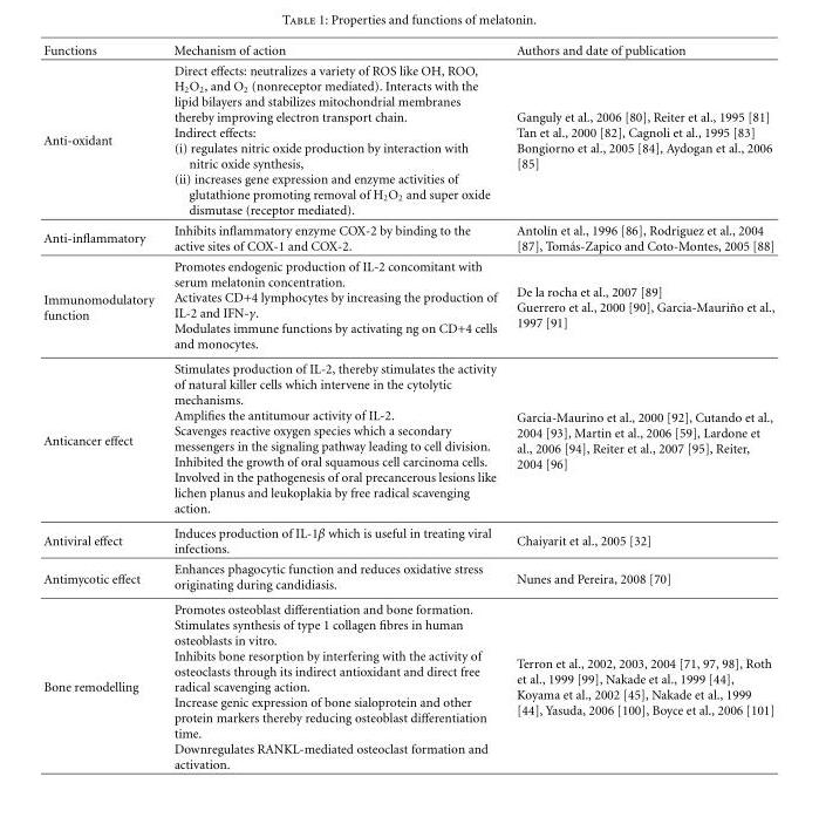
<table><thead><tr><td>Functions</td><td>Mechanism of action</td><td>Authors and date of publication</td></tr></thead><tbody><tr><td>Anti-oxidant</td><td>Direct effects: neutralizes a variety of ROS like OH, ROO, H2O2, and O2 (nonreceptor mediated). Interacts with the lipid bilayers and stabilizes mitochondrial membranes thereby improving electron transport chain. Indirect effects: (i) regulates nitric oxide production by interaction with nitric oxide synthesis, (ii) increases gene expression and enzyme activities of glutathione promoting removal of H2O2 and super oxide dismutase (receptor mediated).</td><td>Ganguly et al., 2006 [80], Reiter et al., 1995 [81] Tan et al., 2000 [82], Cagnoli et al., 1995 [83] Bongiorno et al., 2005 [84], Aydogan et al., 2006 [85]</td></tr><tr><td>Anti-inflammatory</td><td>Inhibits inflammatory enzyme COX-2 by binding to the active sites of COX-1 and COX-2.</td><td>Antol´ın et al., 1996 [86], Rodriguez et al., 2004 [87], Tom´as-Zapico and Coto-Montes, 2005 [88]</td></tr><tr><td>Immunomodulatory function</td><td>Promotes endogenic production of IL-2 concomitant with serum melatonin concentration. Activates CD+4 lymphocytes by increasing the production of IL-2 and IFN-γ. Modulates immune functions by activating ng on CD+4 cells and monocytes.</td><td>De la rocha et al., 2007 [89] Guerrero et al., 2000 [90], Garcia-Mauri˜no et al., 1997 [91]</td></tr><tr><td>Anticancer effect</td><td>Stimulates production of IL-2, thereby stimulates the activity of natural killer cells which intervene in the cytolytic mechanisms. Amplifies the antitumour activity of IL-2. Scavenges reactive oxygen species which a secondary messengers in the signaling pathway leading to cell division. Inhibited the growth of oral squamous cell carcinoma cells. Involved in the pathogenesis of oral precancerous lesions like lichen planus and leukoplakia by free radical scavenging action.</td><td>Garcia-Maurino et al., 2000 [92], Cutando et al., 2004 [93], Martin et al., 2006 [59], Lardone et al., 2006 [94], Reiter et al., 2007 [95], Reiter, 2004 [96]</td></tr><tr><td>Antiviral effect</td><td>Induces production of IL-1β which is useful in treating viral infections.</td><td>Chaiyarit et al., 2005 [32]</td></tr><tr><td>Antimycotic effect</td><td>Enhances phagocytic function and reduces oxidative stress originating during candidiasis.</td><td>Nunes and Pereira, 2008 [70]</td></tr><tr><td>Bone remodelling</td><td>Promotes osteoblast differentiation and bone formation. Stimulates synthesis of type 1 collagen fibres in human osteoblasts in vitro. Inhibits bone resorption by interfering with the activity of osteoclasts through its indirect antioxidant and direct free radical scavenging action. Increase genic expression of bone sialoprotein and other protein markers thereby reducing osteoblast differentiation time. Downregulates RANKL-mediated osteoclast formation and activation.</td><td>Terron et al., 2002, 2003, 2004 [71, 97, 98], Roth et al., 1999 [99], Nakade et al., 1999 [44], Koyama et al., 2002 [45], Nakade et al., 1999 [44], Yasuda, 2006 [100], Boyce et al., 2006 [101]</td></tr></tbody></table>